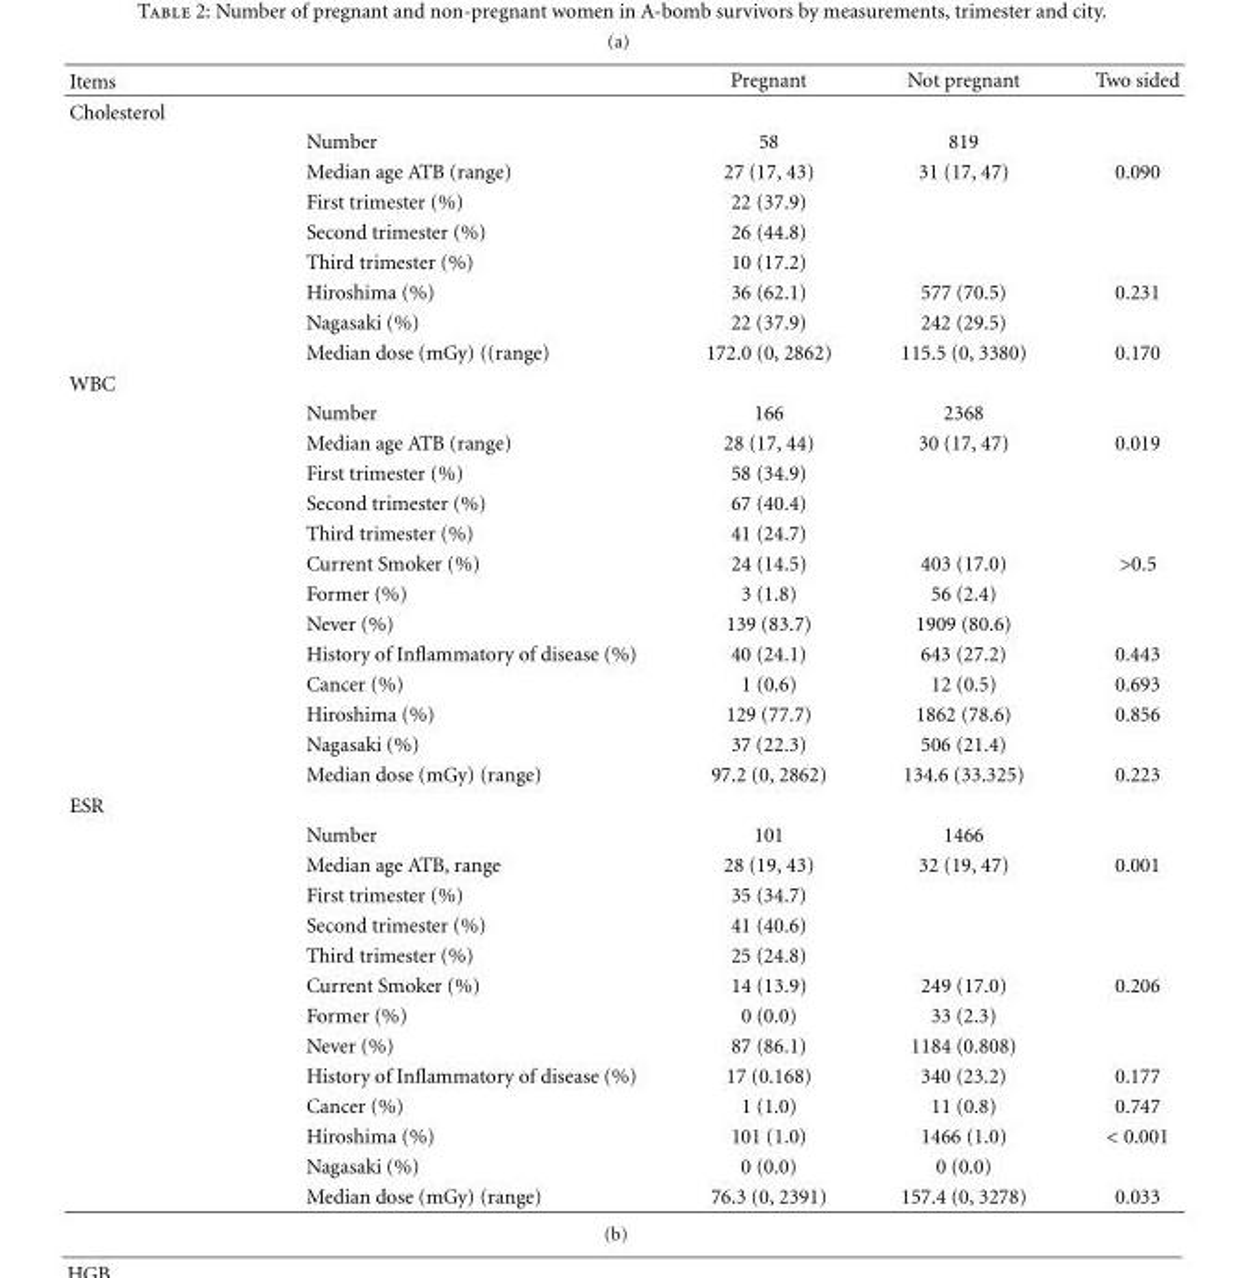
<table><thead><tr><td>Items</td><td></td><td>Pregnant</td><td>Not pregnant</td><td>Two sided</td></tr></thead><tbody><tr><td colspan="5">Cholesterol</td></tr><tr><td></td><td>Number</td><td>58</td><td>819</td><td></td></tr><tr><td></td><td>Median age ATB (range)</td><td>27 (17, 43)</td><td>31 (17, 47)</td><td>0.090</td></tr><tr><td></td><td>First trimester (%)</td><td>22 (37.9)</td><td></td><td></td></tr><tr><td></td><td>Second trimester (%)</td><td>26 (44.8)</td><td></td><td></td></tr><tr><td></td><td>Third trimester (%)</td><td>10 (17.2)</td><td></td><td></td></tr><tr><td></td><td>Hiroshima (%)</td><td>36 (62.1)</td><td>577 (70.5)</td><td>0.231</td></tr><tr><td></td><td>Nagasaki (%)</td><td>22 (37.9)</td><td>242 (29.5)</td><td></td></tr><tr><td></td><td>Median dose (mGy) ((range)</td><td>172.0 (0, 2862)</td><td>115.5 (0, 3380)</td><td>0.170</td></tr><tr><td colspan="5">WBC</td></tr><tr><td></td><td>Number</td><td>166</td><td>2368</td><td></td></tr><tr><td></td><td>Median age ATB (range)</td><td>28 (17, 44)</td><td>30 (17, 47)</td><td>0.019</td></tr><tr><td></td><td>First trimester (%)</td><td>58 (34.9)</td><td></td><td></td></tr><tr><td></td><td>Second trimester (%)</td><td>67 (40.4)</td><td></td><td></td></tr><tr><td></td><td>Third trimester (%)</td><td>41 (24.7)</td><td></td><td></td></tr><tr><td></td><td>Current Smoker (%)</td><td>24 (14.5)</td><td>403 (17.0)</td><td>&gt;0.5</td></tr><tr><td></td><td>Former (%)</td><td>3 (1.8)</td><td>56 (2.4)</td><td></td></tr><tr><td></td><td>Never (%)</td><td>139 (83.7)</td><td>1909 (80.6)</td><td></td></tr><tr><td></td><td>History of Inflammatory of disease (%)</td><td>40 (24.1)</td><td>643 (27.2)</td><td>0.443</td></tr><tr><td></td><td>Cancer (%)</td><td>1 (0.6)</td><td>12 (0.5)</td><td>0.693</td></tr><tr><td></td><td>Hiroshima (%)</td><td>129 (77.7)</td><td>1862 (78.6)</td><td>0.856</td></tr><tr><td></td><td>Nagasaki (%)</td><td>37 (22.3)</td><td>506 (21.4)</td><td></td></tr><tr><td></td><td>Median dose (mGy) (range)</td><td>97.2 (0, 2862)</td><td>134.6 (33.325)</td><td>0.223</td></tr><tr><td colspan="5">ESR</td></tr><tr><td></td><td>Number</td><td>101</td><td>1466</td><td></td></tr><tr><td></td><td>Median age ATB, range</td><td>28 (19, 43)</td><td>32 (19, 47)</td><td>0.001</td></tr><tr><td></td><td>First trimester (%)</td><td>35 (34.7)</td><td></td><td></td></tr><tr><td></td><td>Second trimester (%)</td><td>41 (40.6)</td><td></td><td></td></tr><tr><td></td><td>Third trimester (%)</td><td>25 (24.8)</td><td></td><td></td></tr><tr><td></td><td>Current Smoker (%)</td><td>14 (13.9)</td><td>249 (17.0)</td><td>0.206</td></tr><tr><td></td><td>Former (%)</td><td>0 (0.0)</td><td>33 (2.3)</td><td></td></tr><tr><td></td><td>Never (%)</td><td>87 (86.1)</td><td>1184 (0.808)</td><td></td></tr><tr><td></td><td>History of Inflammatory of disease (%)</td><td>17 (0.168)</td><td>340 (23.2)</td><td>0.177</td></tr><tr><td></td><td>Cancer (%)</td><td>1 (1.0)</td><td>11 (0.8)</td><td>0.747</td></tr><tr><td></td><td>Hiroshima (%)</td><td>101 (1.0)</td><td>1466 (1.0)</td><td>&lt; 0.001</td></tr><tr><td></td><td>Nagasaki (%)</td><td>0 (0.0)</td><td>0 (0.0)</td><td></td></tr><tr><td></td><td>Median dose (mGy) (range)</td><td>76.3 (0, 2391)</td><td>157.4 (0, 3278)</td><td>0.033</td></tr></tbody></table>